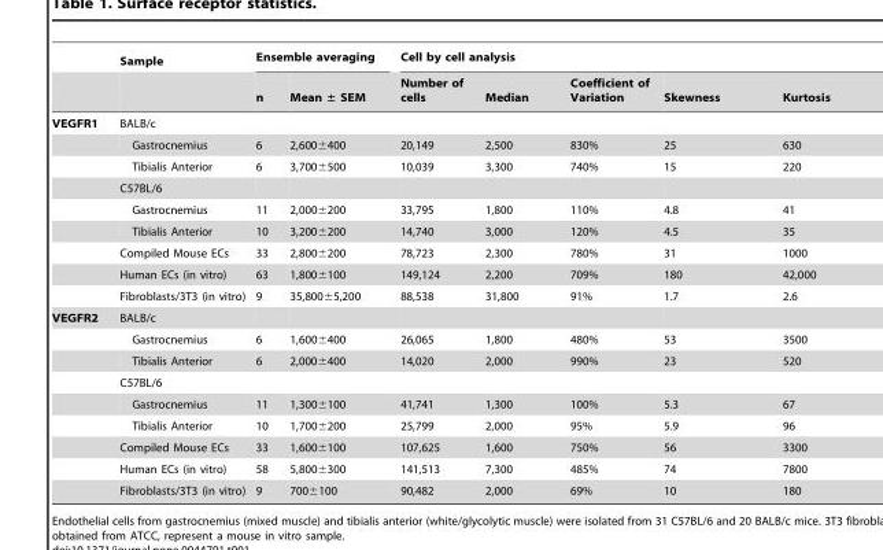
<table><thead><tr><td rowspan="2"></td><td rowspan="2">Sample</td><td colspan="2">Ensemble averaging</td><td colspan="5">Cell by cell analysis</td></tr><tr><td>n</td><td>Mean ± SEM</td><td>Number of cells</td><td>Median</td><td>Coefficient of Variation</td><td>Skewness</td><td>Kurtosis</td></tr></thead><tbody><tr><td rowspan="9">VEGFR1</td><td>BALB/c</td><td></td><td></td><td></td><td></td><td></td><td></td><td></td></tr><tr><td>Gastrocnemius</td><td>6</td><td>2,600±400</td><td>20,149</td><td>2,500</td><td>830%</td><td>25</td><td>630</td></tr><tr><td>Tibialis Anterior</td><td>6</td><td>3,700±500</td><td>10,039</td><td>3,300</td><td>740%</td><td>15</td><td>220</td></tr><tr><td>C57BL/6</td><td></td><td></td><td></td><td></td><td></td><td></td><td></td></tr><tr><td>Gastrocnemius</td><td>11</td><td>2,000±200</td><td>33,795</td><td>1,800</td><td>110%</td><td>4.8</td><td>41</td></tr><tr><td>Tibialis Anterior</td><td>10</td><td>3,200±200</td><td>14,740</td><td>3,000</td><td>120%</td><td>4.5</td><td>35</td></tr><tr><td>Compiled Mouse ECs</td><td>33</td><td>2,800±200</td><td>78,723</td><td>2,300</td><td>780%</td><td>31</td><td>1000</td></tr><tr><td>Human ECs (in vitro)</td><td>63</td><td>1,800±100</td><td>149,124</td><td>2,200</td><td>709%</td><td>180</td><td>42,000</td></tr><tr><td>Fibroblasts/3T3 (in vitro)</td><td>9</td><td>35,800±5,200</td><td>88,538</td><td>31,800</td><td>91%</td><td>1.7</td><td>2.6</td></tr><tr><td rowspan="9">VEGFR2</td><td>BALB/c</td><td></td><td></td><td></td><td></td><td></td><td></td><td></td></tr><tr><td>Gastrocnemius</td><td>6</td><td>1,600±400</td><td>26,065</td><td>1,800</td><td>480%</td><td>53</td><td>3500</td></tr><tr><td>Tibialis Anterior</td><td>6</td><td>2,000±400</td><td>14,020</td><td>2,000</td><td>990%</td><td>23</td><td>520</td></tr><tr><td>C57BL/6</td><td></td><td></td><td></td><td></td><td></td><td></td><td></td></tr><tr><td>Gastrocnemius</td><td>11</td><td>1,300±100</td><td>41,741</td><td>1,300</td><td>100%</td><td>5.3</td><td>67</td></tr><tr><td>Tibialis Anterior</td><td>10</td><td>1,700±200</td><td>25,799</td><td>2,000</td><td>95%</td><td>5.9</td><td>96</td></tr><tr><td>Compiled Mouse ECs</td><td>33</td><td>1,600±100</td><td>107,625</td><td>1,600</td><td>750%</td><td>56</td><td>3300</td></tr><tr><td>Human ECs (in vitro)</td><td>58</td><td>5,800±300</td><td>141,513</td><td>7,300</td><td>485%</td><td>74</td><td>7800</td></tr><tr><td>Fibroblasts/3T3 (in vitro)</td><td>9</td><td>700±100</td><td>90,482</td><td>2,000</td><td>69%</td><td>10</td><td>180</td></tr></tbody></table>